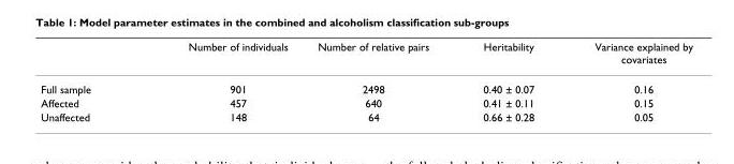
<table><thead><tr><td></td><td>Number of individuals</td><td>Number of relative pairs</td><td>Heritability</td><td>Variance explained by covariates</td></tr></thead><tbody><tr><td>Full sample</td><td>901</td><td>2498</td><td>0.40 ± 0.07</td><td>0.16</td></tr><tr><td>Affected</td><td>457</td><td>640</td><td>0.41 ± 0.11</td><td>0.15</td></tr><tr><td>Unaffected</td><td>148</td><td>64</td><td>0.66 ± 0.28</td><td>0.05</td></tr></tbody></table>